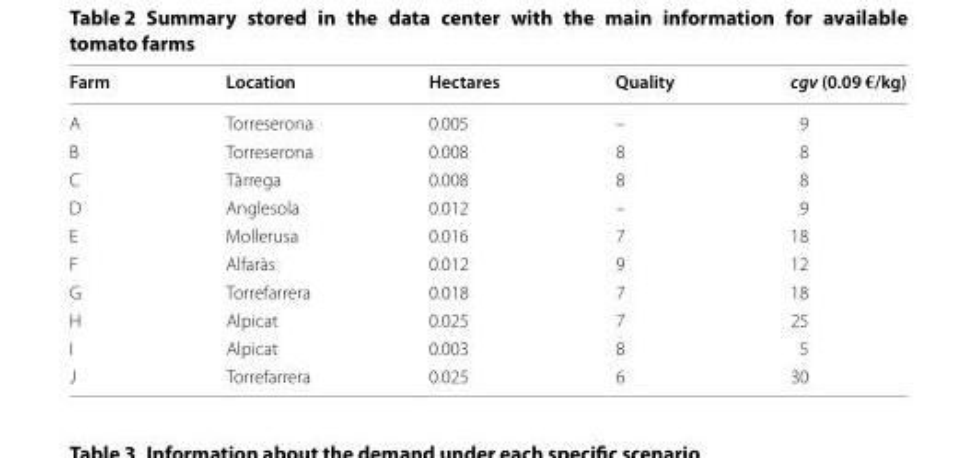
<table><thead><tr><td>Farm</td><td>Location</td><td>Hectares</td><td>Quality</td><td>cgv (0.09 €/kg)</td></tr></thead><tbody><tr><td>A</td><td>Torreserona</td><td>0.005</td><td>–</td><td>9</td></tr><tr><td>B</td><td>Torreserona</td><td>0.008</td><td>8</td><td>8</td></tr><tr><td>C</td><td>Tàrrega</td><td>0.008</td><td>8</td><td>8</td></tr><tr><td>D</td><td>Anglesola</td><td>0.012</td><td>–</td><td>9</td></tr><tr><td>E</td><td>Mollerusa</td><td>0.016</td><td>7</td><td>18</td></tr><tr><td>F</td><td>Alfaràs</td><td>0.012</td><td>9</td><td>12</td></tr><tr><td>G</td><td>Torrefarrera</td><td>0.018</td><td>7</td><td>18</td></tr><tr><td>H</td><td>Alpicat</td><td>0.025</td><td>7</td><td>25</td></tr><tr><td>I</td><td>Alpicat</td><td>0.003</td><td>8</td><td>5</td></tr><tr><td>J</td><td>Torrefarrera</td><td>0.025</td><td>6</td><td>30</td></tr></tbody></table>